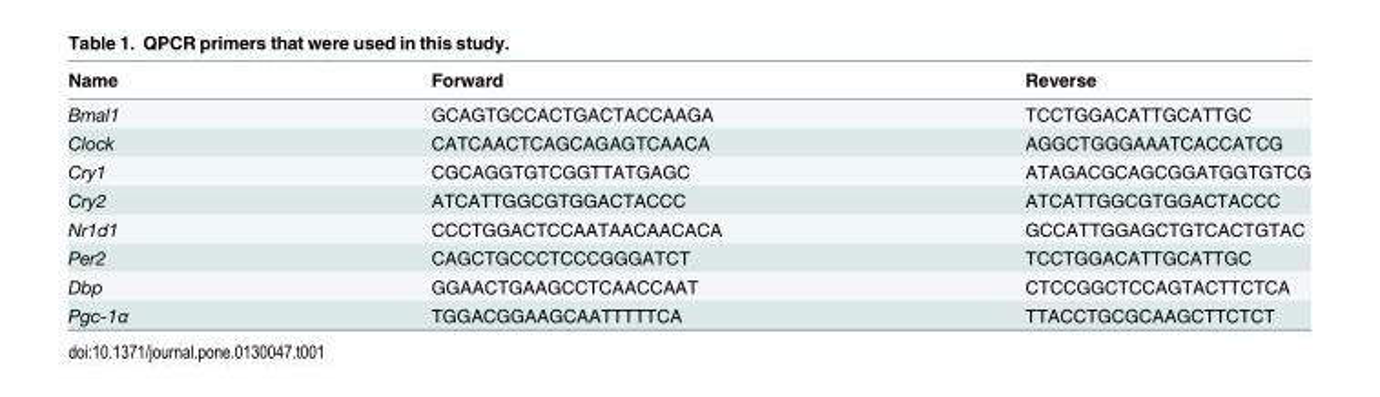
<table><thead><tr><td>Name</td><td>Forward</td><td>Reverse</td></tr></thead><tbody><tr><td>Bmal1</td><td>GCAGTGCCACTGACTACCAAGA</td><td>TCCTGGACATTGCATTGC</td></tr><tr><td>Clock</td><td>CATCAACTCAGCAGAGTCAACA</td><td>AGGCTGGGAAATCACCATCG</td></tr><tr><td>Cry1</td><td>CGCAGGTGTCGGTTATGAGC</td><td>ATAGACGCAGCGGATGGTGTCG</td></tr><tr><td>Cry2</td><td>ATCATTGGCGTGGACTACCC</td><td>ATCATTGGCGTGGACTACCC</td></tr><tr><td>Nr1d1</td><td>CCCTGGACTCCAATAACAACACA</td><td>GCCATTGGAGCTGTCACTGTAC</td></tr><tr><td>Per2</td><td>CAGCTGCCCTCCCGGGATCT</td><td>TCCTGGACATTGCATTGC</td></tr><tr><td>Dbp</td><td>GGAACTGAAGCCTCAACCAAT</td><td>CTCCGGCTCCAGTACTTCTCA</td></tr><tr><td>Pgc-1α</td><td>TGGACGGAAGCAATTTTTCA</td><td>TTACCTGCGCAAGCTTCTCT</td></tr></tbody></table>